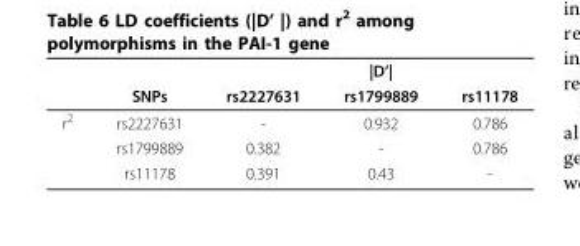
<table><thead><tr><td rowspan="2"></td><td rowspan="2">SNPs</td><td rowspan="2">rs2227631</td><td rowspan="2">|D’| rs1799889</td><td rowspan="2">rs11178</td></tr><tr></tr></thead><tbody><tr><td rowspan="3">r<sup>2</sup></td><td>rs2227631</td><td>-</td><td>0.932</td><td>0.786</td></tr><tr><td>rs1799889</td><td>0.382</td><td>-</td><td>0.786</td></tr><tr><td>rs11178</td><td>0.391</td><td>0.43</td><td>-</td></tr></tbody></table>